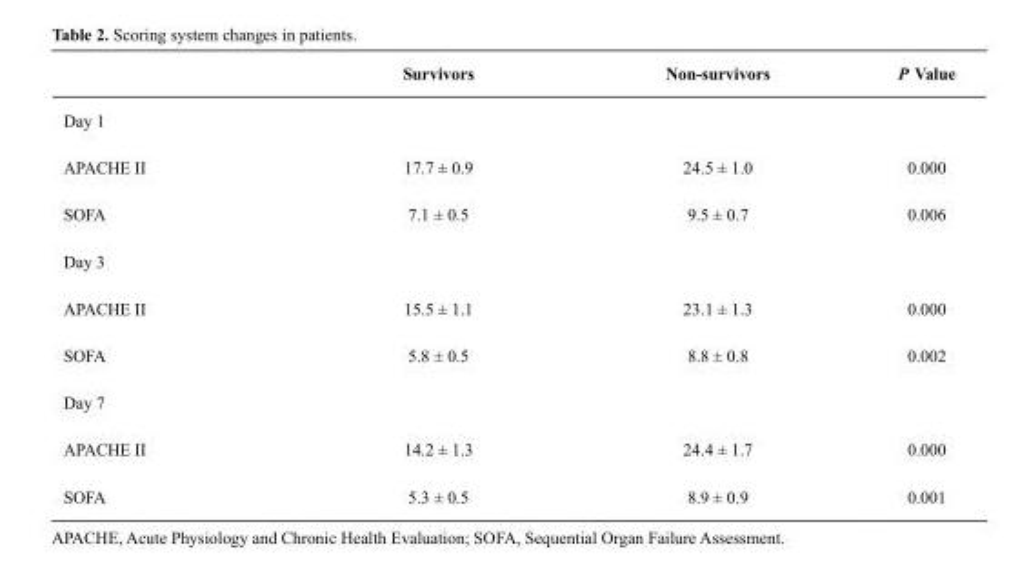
<table><thead><tr><td></td><td>Survivors</td><td>Non-survivors</td><td>P Value</td></tr></thead><tbody><tr><td colspan="4">Day 1</td></tr><tr><td>APACHE II</td><td>17.7 ± 0.9</td><td>24.5 ± 1.0</td><td>0.000</td></tr><tr><td>SOFA</td><td>7.1 ± 0.5</td><td>9.5 ± 0.7</td><td>0.006</td></tr><tr><td colspan="4">Day 3</td></tr><tr><td>APACHE II</td><td>15.5 ± 1.1</td><td>23.1 ± 1.3</td><td>0.000</td></tr><tr><td>SOFA</td><td>5.8 ± 0.5</td><td>8.8 ± 0.8</td><td>0.002</td></tr><tr><td colspan="4">Day 7</td></tr><tr><td>APACHE II</td><td>14.2 ± 1.3</td><td>24.4 ± 1.7</td><td>0.000</td></tr><tr><td>SOFA</td><td>5.3 ± 0.5</td><td>8.9 ± 0.9</td><td>0.001</td></tr></tbody></table>